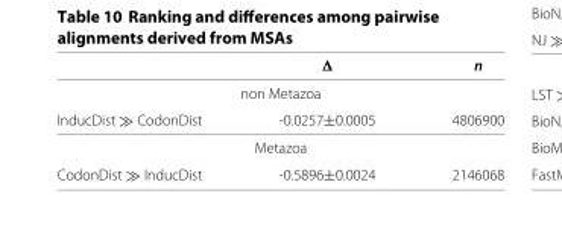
<table><thead><tr><td></td><td>Δ</td><td>n</td></tr></thead><tbody><tr><td colspan="3">non Metazoa</td></tr><tr><td>InducDist ≫ CodonDist</td><td>-0.0257±0.0005</td><td>4806900</td></tr><tr><td colspan="3">Metazoa</td></tr><tr><td>CodonDist ≫ InducDist</td><td>-0.5896±0.0024</td><td>2146068</td></tr></tbody></table>